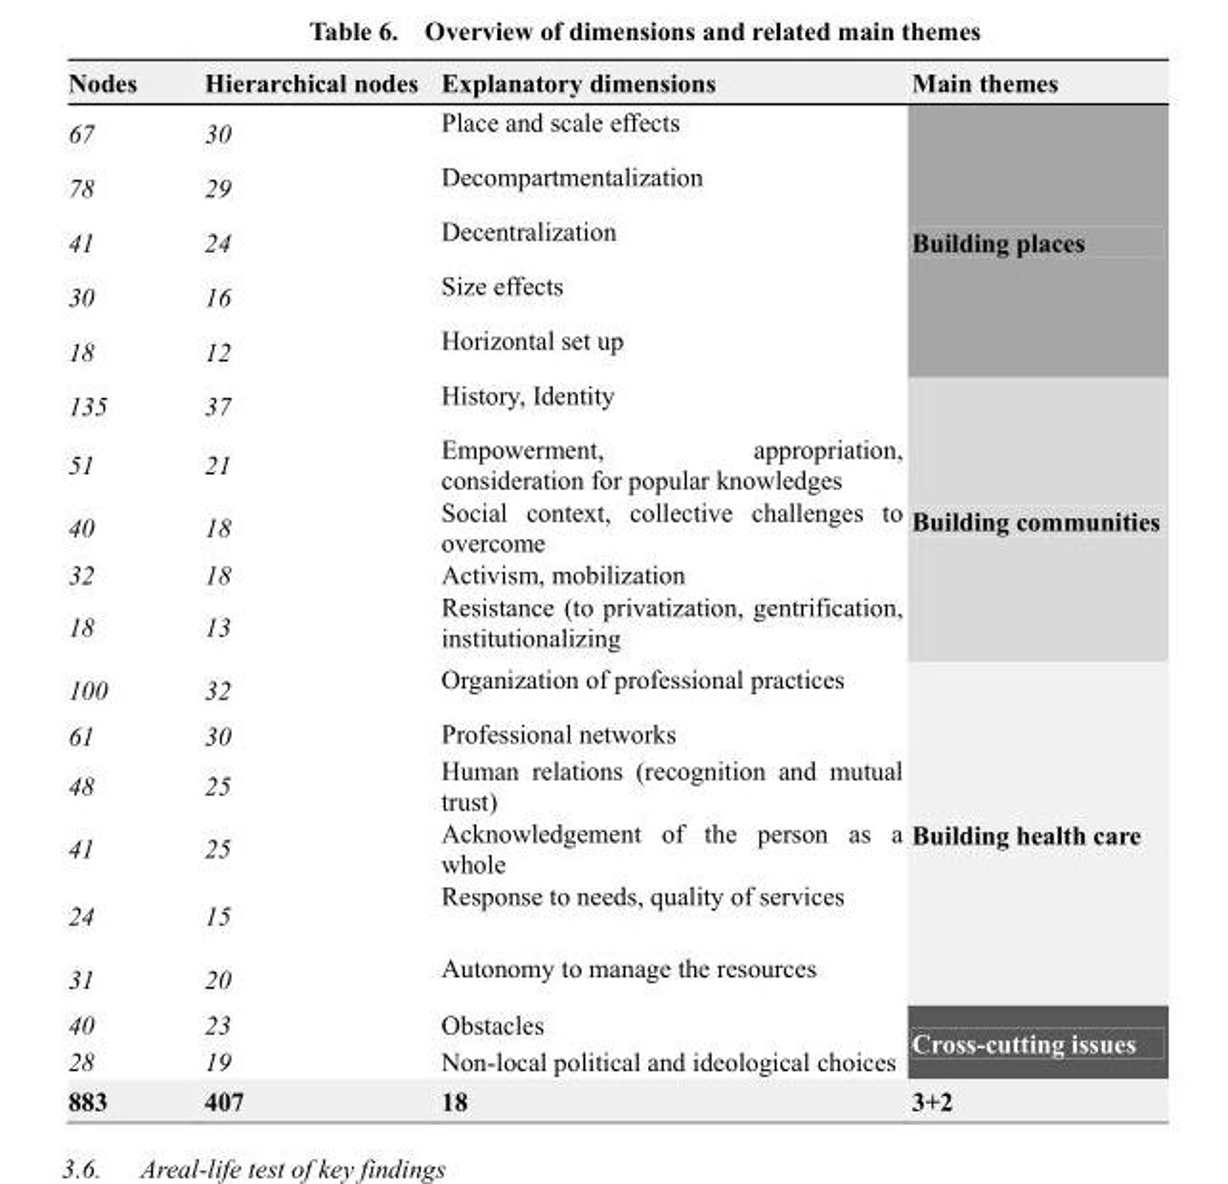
<table><thead><tr><td>Nodes</td><td>Hierarchical nodes</td><td>Explanatory dimensions</td><td>Main themes</td></tr></thead><tbody><tr><td>67</td><td>30</td><td>Place and scale effects</td><td rowspan="5">Building places</td></tr><tr><td>78</td><td>29</td><td>Decompartmentalization</td></tr><tr><td>41</td><td>24</td><td>Decentralization</td></tr><tr><td>30</td><td>16</td><td>Size effects</td></tr><tr><td>18</td><td>12</td><td>Horizontal set up</td></tr><tr><td>135</td><td>37</td><td>History, Identity</td><td rowspan="5">Building communities</td></tr><tr><td>51</td><td>21</td><td>Empowerment, appropriation, consideration for popular knowledges</td></tr><tr><td>40</td><td>18</td><td>Social context, collective challenges to overcome</td></tr><tr><td>32</td><td>18</td><td>Activism, mobilization</td></tr><tr><td>18</td><td>13</td><td>Resistance (to privatization, gentrification, institutionalizing</td></tr><tr><td>100</td><td>32</td><td>Organization of professional practices</td><td rowspan="6">Building health care</td></tr><tr><td>61</td><td>30</td><td>Professional networks</td></tr><tr><td>48</td><td>25</td><td>Human relations (recognition and mutual trust)</td></tr><tr><td>41</td><td>25</td><td>Acknowledgement of the person as a whole</td></tr><tr><td>24</td><td>15</td><td>Response to needs, quality of services</td></tr><tr><td>31</td><td>20</td><td>Autonomy to manage the resources</td></tr><tr><td>40</td><td>23</td><td>Obstacles</td><td rowspan="2">Cross-cutting issues</td></tr><tr><td>28</td><td>19</td><td>Non-local political and ideological choices</td></tr><tr><td>883</td><td>407</td><td>18</td><td>3+2</td></tr></tbody></table>